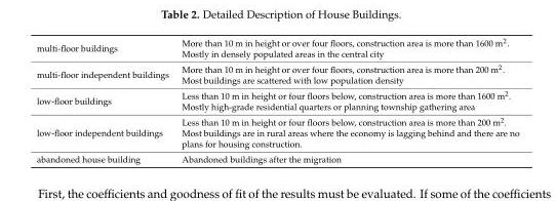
<table><tbody><tr><td>multi-floor buildings</td><td>More than 10 m in height or over four floors, construction area is more than 1600 m<sup>2</sup>. Mostly in densely populated areas in the central city</td></tr><tr><td>multi-floor independent buildings</td><td>More than 10 m in height or over four floors, construction area is more than 200 m<sup>2</sup>. Most buildings are scattered with low population density</td></tr><tr><td>low-floor buildings</td><td>Less than 10 m in height or four floors below, construction area is more than 1600 m<sup>2</sup>. Mostly high-grade residential quarters or planning township gathering area</td></tr><tr><td>low-floor independent buildings</td><td>Less than 10 m in height or four floors below, construction area is more than 200 m<sup>2</sup>. Most buildings are in rural areas where the economy is lagging behind and there are no plans for housing construction.</td></tr><tr><td>abandoned house building</td><td>Abandoned buildings after the migration</td></tr></tbody></table>